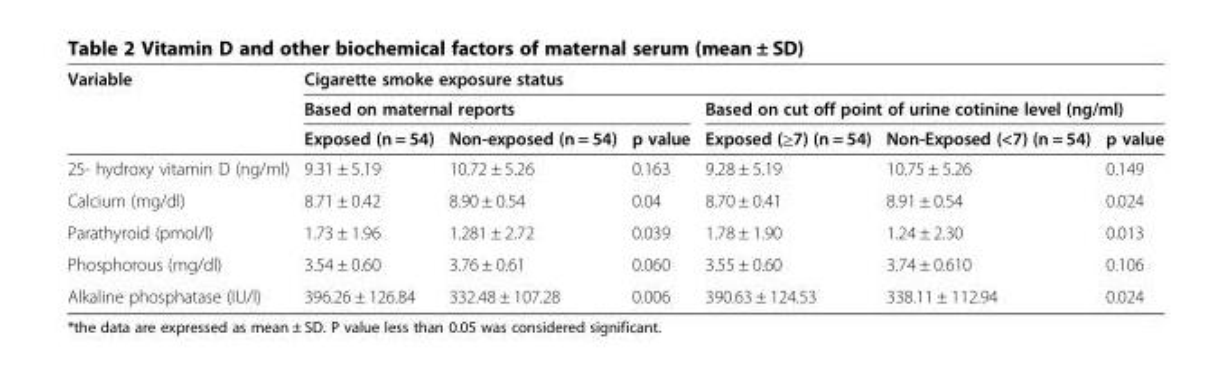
<table><thead><tr><td rowspan="3">Variable</td><td colspan="6">Cigarette smoke exposure status</td></tr><tr><td colspan="3">Based on maternal reports</td><td colspan="3">Based on cut off point of urine cotinine level (ng/ml)</td></tr><tr><td>Exposed (n = 54)</td><td>Non-exposed (n = 54)</td><td>p value</td><td>Exposed (≥7) (n = 54)</td><td>Non-Exposed (&lt;7) (n = 54)</td><td>p value</td></tr></thead><tbody><tr><td>25- hydroxy vitamin D (ng/ml)</td><td>9.31 ± 5.19</td><td>10.72 ± 5.26</td><td>0.163</td><td>9.28 ± 5.19</td><td>10.75 ± 5.26</td><td>0.149</td></tr><tr><td>Calcium (mg/dl)</td><td>8.71 ± 0.42</td><td>8.90 ± 0.54</td><td>0.04</td><td>8.70 ± 0.41</td><td>8.91 ± 0.54</td><td>0.024</td></tr><tr><td>Parathyroid (pmol/l)</td><td>1.73 ± 1.96</td><td>1.281 ± 2.72</td><td>0.039</td><td>1.78 ± 1.90</td><td>1.24 ± 2.30</td><td>0.013</td></tr><tr><td>Phosphorous (mg/dl)</td><td>3.54 ± 0.60</td><td>3.76 ± 0.61</td><td>0.060</td><td>3.55 ± 0.60</td><td>3.74 ± 0.610</td><td>0.106</td></tr><tr><td>Alkaline phosphatase (IU/l)</td><td>396.26 ± 126.84</td><td>332.48 ± 107.28</td><td>0.006</td><td>390.63 ± 124.53</td><td>338.11 ± 112.94</td><td>0.024</td></tr></tbody></table>